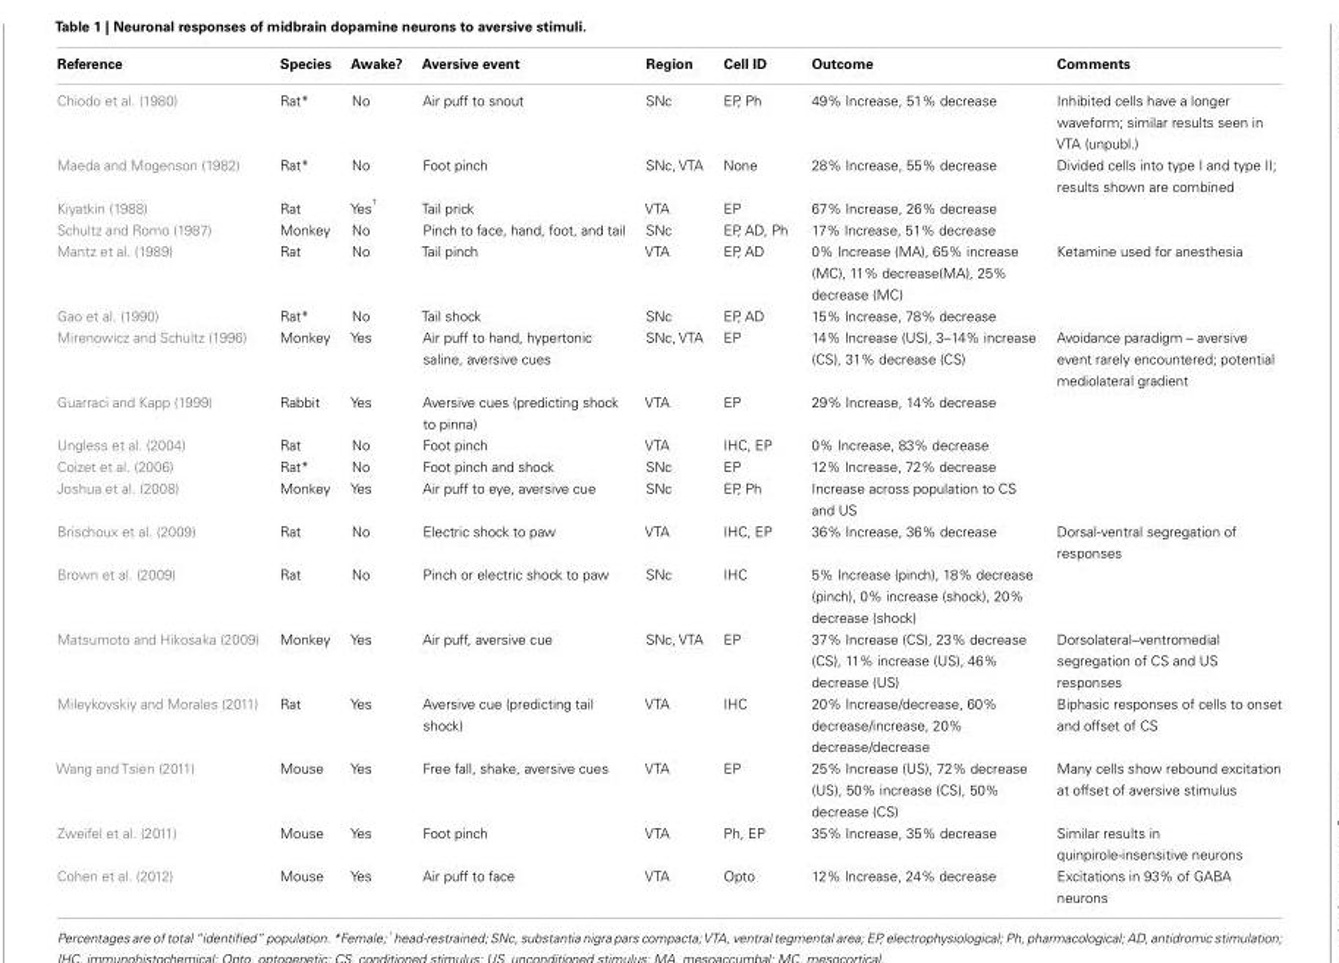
<table><thead><tr><td>Reference</td><td>Species</td><td>Awake?</td><td>Aversive event</td><td>Region</td><td>Cell ID</td><td>Outcome</td><td>Comments</td></tr></thead><tbody><tr><td>Chiodo et al. (1980)</td><td>Rat*</td><td>No</td><td>Air puff to snout</td><td>SNc</td><td>EP, Ph</td><td>49% Increase, 51% decrease</td><td>Inhibited cells have a longer waveform; similar results seen in VTA (unpubl.)</td></tr><tr><td>Maeda and Mogenson (1982)</td><td>Rat*</td><td>No</td><td>Foot pinch</td><td>SNc, VTA</td><td>None</td><td>28% Increase, 55% decrease</td><td>Divided cells into type I and type II; results shown are combined</td></tr><tr><td>Kiyatkin (1988)</td><td>Rat</td><td>Yes <sup>†</sup></td><td>Tail prick</td><td>VTA</td><td>EP</td><td>67% Increase, 26% decrease</td><td></td></tr><tr><td>Schultz and Romo (1987)</td><td>Monkey</td><td>No</td><td>Pinch to face, hand, foot, and tail</td><td>SNc</td><td>EP, AD, Ph</td><td>17% Increase, 51% decrease</td><td></td></tr><tr><td>Mantz et al. (1989)</td><td>Rat</td><td>No</td><td>Tail pinch</td><td>VTA</td><td>EP, AD</td><td>0% Increase (MA), 65% increase (MC), 11% decrease(MA), 25% decrease (MC)</td><td>Ketamine used for anesthesia</td></tr><tr><td>Gao et al. (1990)</td><td>Rat*</td><td>No</td><td>Tail shock</td><td>SNc</td><td>EP, AD</td><td>15% Increase, 78% decrease</td><td></td></tr><tr><td>Mirenowicz and Schultz (1996)</td><td>Monkey</td><td>Yes</td><td>Air puff to hand, hypertonic saline, aversive cues</td><td>SNc, VTA</td><td>EP</td><td>14% Increase (US), 3–14% increase (CS), 31% decrease (CS)</td><td>Avoidance paradigm – aversive event rarely encountered; potential mediolateral gradient</td></tr><tr><td>Guarraci and Kapp (1999)</td><td>Rabbit</td><td>Yes</td><td>Aversive cues (predicting shock to pinna)</td><td>VTA</td><td>EP</td><td>29% Increase, 14% decrease</td><td></td></tr><tr><td>Ungless et al. (2004)</td><td>Rat</td><td>No</td><td>Foot pinch</td><td>VTA</td><td>IHC, EP</td><td>0% Increase, 83% decrease</td><td></td></tr><tr><td>Coizet et al. (2006)</td><td>Rat*</td><td>No</td><td>Foot pinch and shock</td><td>SNc</td><td>EP</td><td>12% Increase, 72% decrease</td><td></td></tr><tr><td>Joshua et al. (2008)</td><td>Monkey</td><td>Yes</td><td>Air puff to eye, aversive cue</td><td>SNc</td><td>EP, Ph</td><td>Increase across population to CS and US</td><td></td></tr><tr><td>Brischoux et al. (2009)</td><td>Rat</td><td>No</td><td>Electric shock to paw</td><td>VTA</td><td>IHC, EP</td><td>36% Increase, 36% decrease</td><td>Dorsal-ventral segregation of responses</td></tr><tr><td>Brown et al. (2009)</td><td>Rat</td><td>No</td><td>Pinch or electric shock to paw</td><td>SNc</td><td>IHC</td><td>5% Increase (pinch), 18% decrease (pinch), 0% increase (shock), 20% decrease (shock)</td><td></td></tr><tr><td>Matsumoto and Hikosaka (2009)</td><td>Monkey</td><td>Yes</td><td>Air puff, aversive cue</td><td>SNc, VTA</td><td>EP</td><td>37% Increase (CS), 23% decrease (CS), 11% increase (US), 46% decrease (US)</td><td>Dorsolateral–ventromedial segregation of CS and US responses</td></tr><tr><td>Mileykovskiy and Morales (2011)</td><td>Rat</td><td>Yes</td><td>Aversive cue (predicting tail shock)</td><td>VTA</td><td>IHC</td><td>20% Increase/decrease, 60% decrease/increase, 20% decrease/decrease</td><td>Biphasic responses of cells to onset and offset of CS</td></tr><tr><td>Wang and Tsien (2011)</td><td>Mouse</td><td>Yes</td><td>Free fall, shake, aversive cues</td><td>VTA</td><td>EP</td><td>25% Increase (US), 72% decrease (US), 50% increase (CS), 50% decrease (CS)</td><td>Many cells show rebound excitation at offset of aversive stimulus</td></tr><tr><td>Zweifel et al. (2011)</td><td>Mouse</td><td>Yes</td><td>Foot pinch</td><td>VTA</td><td>Ph, EP</td><td>35% Increase, 35% decrease</td><td>Similar results in quinpirole-insensitive neurons</td></tr><tr><td>Cohen et al. (2012)</td><td>Mouse</td><td>Yes</td><td>Air puff to face</td><td>VTA</td><td>Opto</td><td>12% Increase, 24% decrease</td><td>Excitations in 93% of GABA neurons</td></tr></tbody></table>